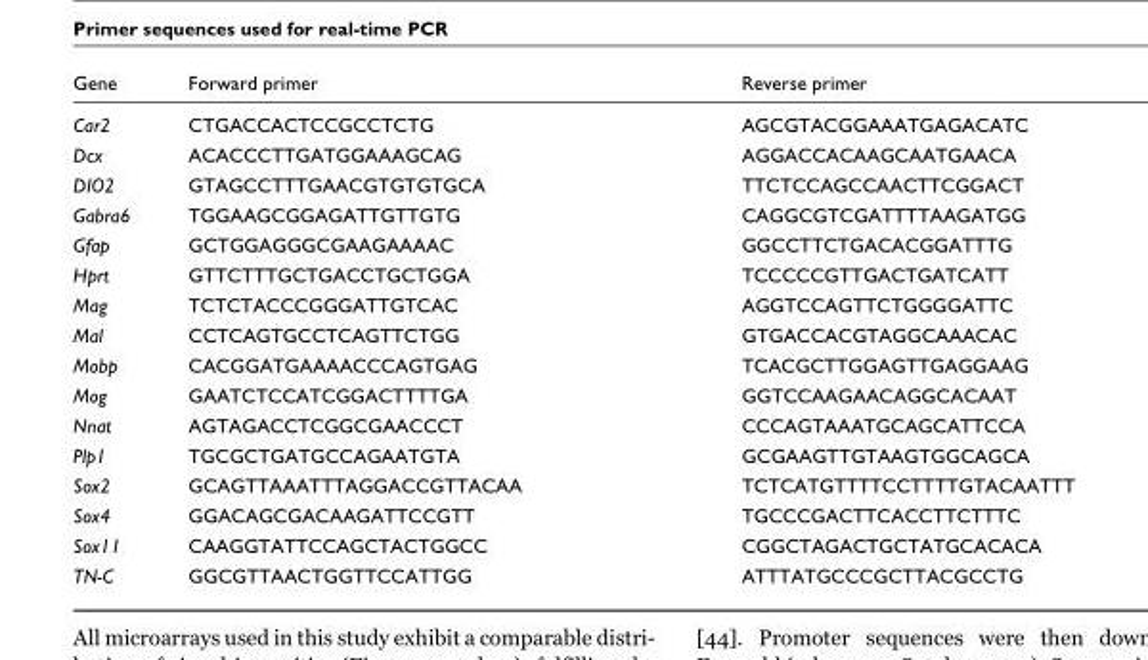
<table><thead><tr><td>Gene</td><td>Forward primer</td><td>Reverse primer</td></tr></thead><tbody><tr><td>Car2</td><td>CTGACCACTCCGCCTCTG</td><td>AGCGTACGGAAATGAGACATC</td></tr><tr><td>Dcx</td><td>ACACCCTTGATGGAAAGCAG</td><td>AGGACCACAAGCAATGAACA</td></tr><tr><td>DIO2</td><td>GTAGCCTTTGAACGTGTGTGCA</td><td>TTCTCCAGCCAACTTCGGACT</td></tr><tr><td>Gabra6</td><td>TGGAAGCGGAGATTGTTGTG</td><td>CAGGCGTCGATTTTAAGATGG</td></tr><tr><td>Gfap</td><td>GCTGGAGGGCGAAGAAAAC</td><td>GGCCTTCTGACACGGATTTG</td></tr><tr><td>Hprt</td><td>GTTCTTTGCTGACCTGCTGGA</td><td>TCCCCCGTTGACTGATCATT</td></tr><tr><td>Mag</td><td>TCTCTACCCGGGATTGTCAC</td><td>AGGTCCAGTTCTGGGGATTC</td></tr><tr><td>Mal</td><td>CCTCAGTGCCTCAGTTCTGG</td><td>GTGACCACGTAGGCAAACAC</td></tr><tr><td>Mobp</td><td>CACGGATGAAAACCCAGTGAG</td><td>TCACGCTTGGAGTTGAGGAAG</td></tr><tr><td>Mog</td><td>GAATCTCCATCGGACTTTTGA</td><td>GGTCCAAGAACAGGCACAAT</td></tr><tr><td>Nnat</td><td>AGTAGACCTCGGCGAACCCT</td><td>CCCAGTAAATGCAGCATTCCA</td></tr><tr><td>Plp1</td><td>TGCGCTGATGCCAGAATGTA</td><td>GCGAAGTTGTAAGTGGCAGCA</td></tr><tr><td>Sox2</td><td>GCAGTTAAATTTAGGACCGTTACAA</td><td>TCTCATGTTTTCCTTTTGTACAATTT</td></tr><tr><td>Sox4</td><td>GGACAGCGACAAGATTCCGTT</td><td>TGCCCGACTTCACCTTCTTTC</td></tr><tr><td>Sox11</td><td>CAAGGTATTCCAGCTACTGGCC</td><td>CGGCTAGACTGCTATGCACACA</td></tr><tr><td>TN-C</td><td>GGCGTTAACTGGTTCCATTGG</td><td>ATTTATGCCCGCTTACGCCTG</td></tr></tbody></table>